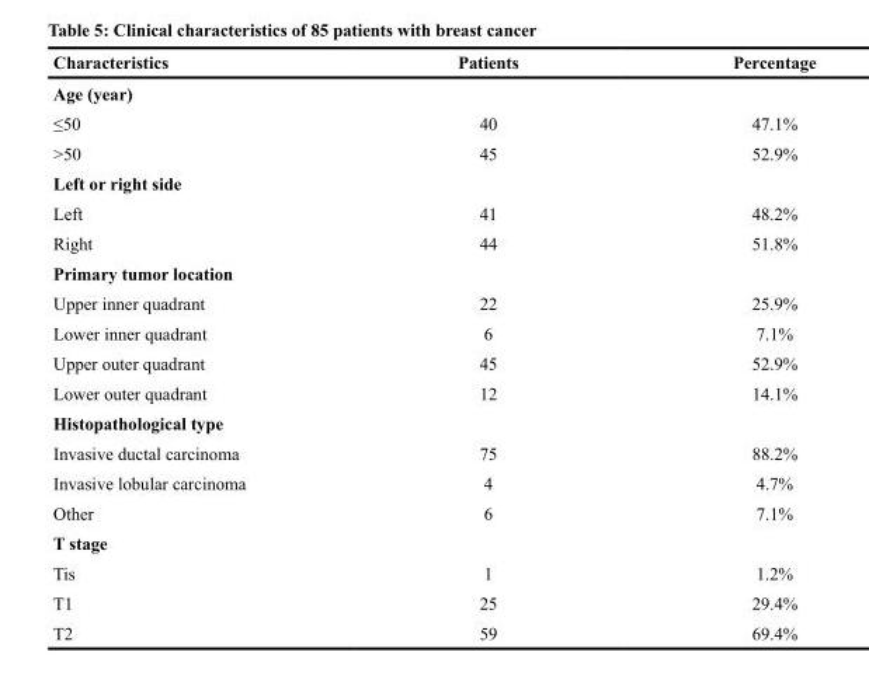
<table><thead><tr><td>Characteristics</td><td>Patients</td><td>Percentage</td></tr></thead><tbody><tr><td colspan="3">Age (year)</td></tr><tr><td>≤50</td><td>40</td><td>47.1%</td></tr><tr><td>&gt;50</td><td>45</td><td>52.9%</td></tr><tr><td colspan="3">Left or right side</td></tr><tr><td>Left</td><td>41</td><td>48.2%</td></tr><tr><td>Right</td><td>44</td><td>51.8%</td></tr><tr><td colspan="3">Primary tumor location</td></tr><tr><td>Upper inner quadrant</td><td>22</td><td>25.9%</td></tr><tr><td>Lower inner quadrant</td><td>6</td><td>7.1%</td></tr><tr><td>Upper outer quadrant</td><td>45</td><td>52.9%</td></tr><tr><td>Lower outer quadrant</td><td>12</td><td>14.1%</td></tr><tr><td colspan="3">Histopathological type</td></tr><tr><td>Invasive ductal carcinoma</td><td>75</td><td>88.2%</td></tr><tr><td>Invasive lobular carcinoma</td><td>4</td><td>4.7%</td></tr><tr><td>Other</td><td>6</td><td>7.1%</td></tr><tr><td colspan="3">T stage</td></tr><tr><td>Tis</td><td>1</td><td>1.2%</td></tr><tr><td>T1</td><td>25</td><td>29.4%</td></tr><tr><td>T2</td><td>59</td><td>69.4%</td></tr></tbody></table>